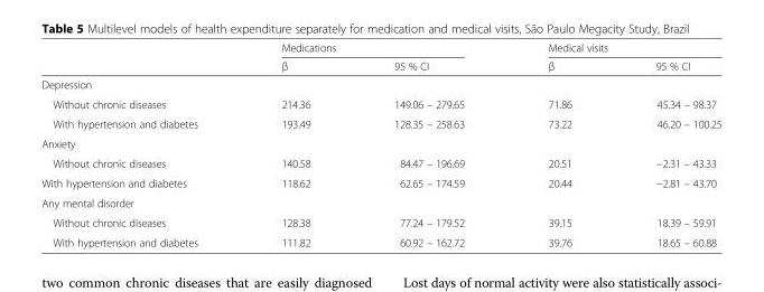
<table><thead><tr><td rowspan="2"></td><td colspan="2">Medications</td><td colspan="2">Medical visits</td></tr><tr><td>β</td><td>95 % CI</td><td>β</td><td>95 % CI</td></tr></thead><tbody><tr><td colspan="5">Depression</td></tr><tr><td>Without chronic diseases</td><td>214.36</td><td>149.06 – 279.65</td><td>71.86</td><td>45.34 – 98.37</td></tr><tr><td>With hypertension and diabetes</td><td>193.49</td><td>128.35 – 258.63</td><td>73.22</td><td>46.20 – 100.25</td></tr><tr><td colspan="5">Anxiety</td></tr><tr><td>Without chronic diseases</td><td>140.58</td><td>84.47 – 196.69</td><td>20.51</td><td>−2.31 – 43.33</td></tr><tr><td>With hypertension and diabetes</td><td>118.62</td><td>62.65 – 174.59</td><td>20.44</td><td>−2.81 – 43.70</td></tr><tr><td colspan="5">Any mental disorder</td></tr><tr><td>Without chronic diseases</td><td>128.38</td><td>77.24 – 179.52</td><td>39.15</td><td>18.39 – 59.91</td></tr><tr><td>With hypertension and diabetes</td><td>111.82</td><td>60.92 – 162.72</td><td>39.76</td><td>18.65 – 60.88</td></tr></tbody></table>